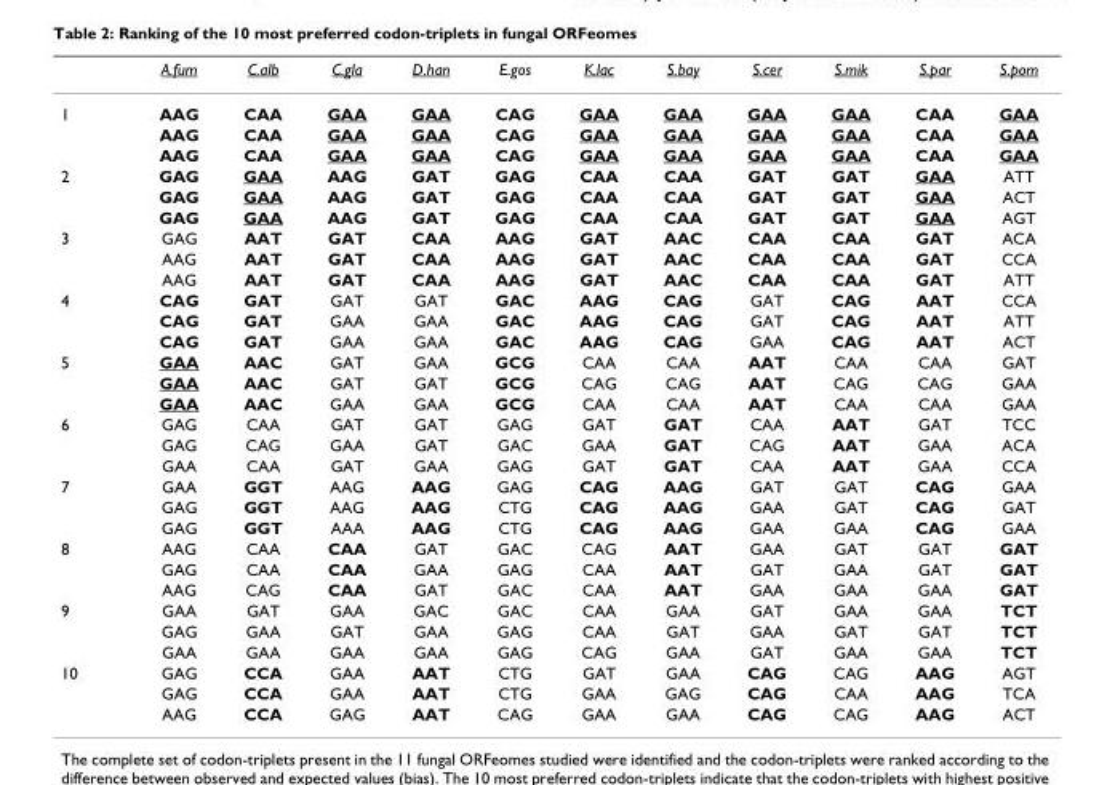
<table><thead><tr><td></td><td>A.fum</td><td>C.alb</td><td>C.gla</td><td>D.han</td><td>E.gos</td><td>K.lac</td><td>S.bay</td><td>S.cer</td><td>S.mik</td><td>S.par</td><td>S.pom</td></tr></thead><tbody><tr><td rowspan="3">1</td><td>AAG</td><td>CAA</td><td>GAA</td><td>GAA</td><td>CAG</td><td>GAA</td><td>GAA</td><td>GAA</td><td>GAA</td><td>CAA</td><td>GAA</td></tr><tr><td>AAG</td><td>CAA</td><td>GAA</td><td>GAA</td><td>CAG</td><td>GAA</td><td>GAA</td><td>GAA</td><td>GAA</td><td>CAA</td><td>GAA</td></tr><tr><td>AAG</td><td>CAA</td><td>GAA</td><td>GAA</td><td>CAG</td><td>GAA</td><td>GAA</td><td>GAA</td><td>GAA</td><td>CAA</td><td>GAA</td></tr><tr><td rowspan="3">2</td><td>GAG</td><td>GAA</td><td>AAG</td><td>GAT</td><td>GAG</td><td>CAA</td><td>CAA</td><td>GAT</td><td>GAT</td><td>GAA</td><td>ATT</td></tr><tr><td>GAG</td><td>GAA</td><td>AAG</td><td>GAT</td><td>GAG</td><td>CAA</td><td>CAA</td><td>GAT</td><td>GAT</td><td>GAA</td><td>ACT</td></tr><tr><td>GAG</td><td>GAA</td><td>AAG</td><td>GAT</td><td>GAG</td><td>CAA</td><td>CAA</td><td>GAT</td><td>GAT</td><td>GAA</td><td>AGT</td></tr><tr><td rowspan="3">3</td><td>GAG</td><td>AAT</td><td>GAT</td><td>CAA</td><td>AAG</td><td>GAT</td><td>AAC</td><td>CAA</td><td>CAA</td><td>GAT</td><td>ACA</td></tr><tr><td>AAG</td><td>AAT</td><td>GAT</td><td>CAA</td><td>AAG</td><td>GAT</td><td>AAC</td><td>CAA</td><td>CAA</td><td>GAT</td><td>CCA</td></tr><tr><td>AAG</td><td>AAT</td><td>GAT</td><td>CAA</td><td>AAG</td><td>GAT</td><td>AAC</td><td>CAA</td><td>CAA</td><td>GAT</td><td>ATT</td></tr><tr><td rowspan="3">4</td><td>CAG</td><td>GAT</td><td>GAT</td><td>GAT</td><td>GAC</td><td>AAG</td><td>CAG</td><td>GAT</td><td>CAG</td><td>AAT</td><td>CCA</td></tr><tr><td>CAG</td><td>GAT</td><td>GAA</td><td>GAA</td><td>GAC</td><td>AAG</td><td>CAG</td><td>GAT</td><td>CAG</td><td>AAT</td><td>ATT</td></tr><tr><td>CAG</td><td>GAT</td><td>GAA</td><td>GAA</td><td>GAC</td><td>AAG</td><td>CAG</td><td>GAA</td><td>CAG</td><td>AAT</td><td>ACT</td></tr><tr><td rowspan="3">5</td><td>GAA</td><td>AAC</td><td>GAT</td><td>GAA</td><td>GCG</td><td>CAA</td><td>CAA</td><td>AAT</td><td>CAA</td><td>CAA</td><td>GAT</td></tr><tr><td>GAA</td><td>AAC</td><td>GAT</td><td>GAT</td><td>GCG</td><td>CAG</td><td>CAG</td><td>AAT</td><td>CAG</td><td>CAG</td><td>GAA</td></tr><tr><td>GAA</td><td>AAC</td><td>GAA</td><td>GAA</td><td>GCG</td><td>CAA</td><td>CAA</td><td>AAT</td><td>CAA</td><td>CAA</td><td>GAA</td></tr><tr><td rowspan="3">6</td><td>GAG</td><td>CAA</td><td>GAT</td><td>GAT</td><td>GAG</td><td>GAT</td><td>GAT</td><td>CAA</td><td>AAT</td><td>GAT</td><td>TCC</td></tr><tr><td>GAG</td><td>CAG</td><td>GAA</td><td>GAT</td><td>GAC</td><td>GAA</td><td>GAT</td><td>CAG</td><td>AAT</td><td>GAA</td><td>ACA</td></tr><tr><td>GAA</td><td>CAA</td><td>GAT</td><td>GAA</td><td>GAG</td><td>GAT</td><td>GAT</td><td>CAA</td><td>AAT</td><td>GAA</td><td>CCA</td></tr><tr><td rowspan="3">7</td><td>GAA</td><td>GGT</td><td>AAG</td><td>AAG</td><td>GAG</td><td>CAG</td><td>AAG</td><td>GAT</td><td>GAT</td><td>CAG</td><td>GAA</td></tr><tr><td>GAG</td><td>GGT</td><td>AAG</td><td>AAG</td><td>CTG</td><td>CAG</td><td>AAG</td><td>GAA</td><td>GAT</td><td>CAG</td><td>GAT</td></tr><tr><td>GAG</td><td>GGT</td><td>AAA</td><td>AAG</td><td>CTG</td><td>CAG</td><td>AAG</td><td>GAA</td><td>GAA</td><td>CAG</td><td>GAA</td></tr><tr><td rowspan="3">8</td><td>AAG</td><td>CAA</td><td>CAA</td><td>GAT</td><td>GAC</td><td>CAG</td><td>AAT</td><td>GAA</td><td>GAT</td><td>GAT</td><td>GAT</td></tr><tr><td>GAG</td><td>CAA</td><td>CAA</td><td>GAA</td><td>GAG</td><td>CAA</td><td>AAT</td><td>GAT</td><td>GAA</td><td>GAT</td><td>GAT</td></tr><tr><td>AAG</td><td>CAG</td><td>CAA</td><td>GAT</td><td>GAC</td><td>CAA</td><td>AAT</td><td>GAA</td><td>GAA</td><td>GAA</td><td>GAT</td></tr><tr><td rowspan="3">9</td><td>GAA</td><td>GAT</td><td>GAA</td><td>GAC</td><td>GAC</td><td>CAA</td><td>GAA</td><td>GAT</td><td>GAA</td><td>GAA</td><td>TCT</td></tr><tr><td>GAG</td><td>GAA</td><td>GAT</td><td>GAA</td><td>GAG</td><td>CAA</td><td>GAT</td><td>GAA</td><td>GAT</td><td>GAT</td><td>TCT</td></tr><tr><td>GAA</td><td>GAA</td><td>GAA</td><td>GAA</td><td>GAG</td><td>CAG</td><td>GAA</td><td>GAT</td><td>GAA</td><td>GAA</td><td>TCT</td></tr><tr><td rowspan="3">10</td><td>GAG</td><td>CCA</td><td>GAA</td><td>AAT</td><td>CTG</td><td>GAT</td><td>GAA</td><td>CAG</td><td>CAG</td><td>AAG</td><td>AGT</td></tr><tr><td>GAG</td><td>CCA</td><td>GAA</td><td>AAT</td><td>CTG</td><td>GAA</td><td>GAG</td><td>CAG</td><td>CAA</td><td>AAG</td><td>TCA</td></tr><tr><td>AAG</td><td>CCA</td><td>GAG</td><td>AAT</td><td>CAG</td><td>GAA</td><td>GAA</td><td>CAG</td><td>CAG</td><td>AAG</td><td>ACT</td></tr></tbody></table>